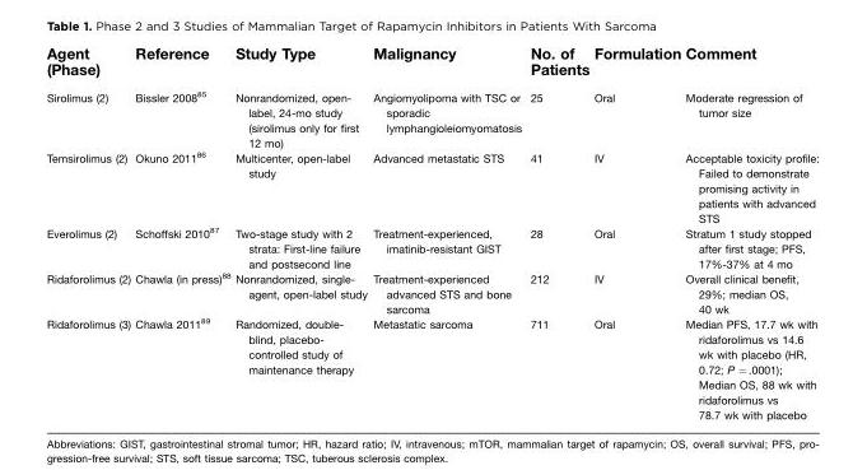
<table><thead><tr><td>Agent (Phase)</td><td>Reference</td><td>Study Type</td><td>Malignancy</td><td>No. of Patients</td><td>Formulation</td><td>Comment</td></tr></thead><tbody><tr><td>Sirolimus (2)</td><td>Bissler 2008<sup>85</sup></td><td>Nonrandomized, open- label, 24-mo study (sirolimus only for first 12 mo)</td><td>Angiomyolipoma with TSC or sporadic lymphangioleiomyomatosis</td><td>25</td><td>Oral</td><td>Moderate regression of tumor size</td></tr><tr><td>Temsirolimus (2)</td><td>Okuno 201186</td><td>Multicenter, open-label study</td><td>Advanced metastatic STS</td><td>41</td><td>IV</td><td>Acceptable toxicity profile: Failed to demonstrate promising activity in patients with advanced STS</td></tr><tr><td>Everolimus (2)</td><td>Schoffski 2010<sup>87</sup></td><td>Two-stage study with 2 strata: First-line failure and postsecond line</td><td>Treatment-experienced, imatinib-resistant GIST</td><td>28</td><td>Oral</td><td>Stratum 1 study stopped after first stage; PFS, 17%-37% at 4 mo</td></tr><tr><td>Ridaforolimus (2)</td><td>Chawla (in press)<sup>88</sup></td><td>Nonrandomized, single- agent, open-label study</td><td>Treatment-experienced advanced STS and bone sarcoma</td><td>212</td><td>IV</td><td>Overall clinical benefit, 29%; median OS, 40 wk</td></tr><tr><td>Ridaforolimus (3)</td><td>Chawla 2011<sup>89</sup></td><td>Randomized, double- blind, placebo- controlled study of maintenance therapy</td><td>Metastatic sarcoma</td><td>711</td><td>Oral</td><td>Median PFS, 17.7 wk with ridaforolimus vs 14.6 wk with placebo (HR, 0.72; P = .0001); Median OS, 88 wk with ridaforolimus vs 78.7 wk with placebo</td></tr></tbody></table>